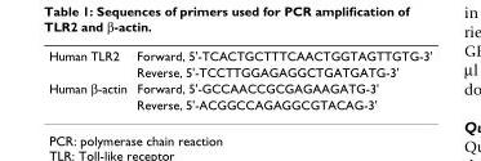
<table><tbody><tr><td rowspan="2">Human TLR2</td><td>Forward, 5&#x27;-TCACTGCTTTCAACTGGTAGTTGTG-3&#x27;</td></tr><tr><td>Reverse, 5&#x27;-TCCTTGGAGAGGCTGATGATG-3&#x27;</td></tr><tr><td rowspan="2">Human β-actin</td><td>Forward, 5&#x27;-GCCAACCGCGAGAAGATG-3&#x27;</td></tr><tr><td>Reverse, 5&#x27;-ACGGCCAGAGGCGTACAG-3&#x27;</td></tr></tbody></table>